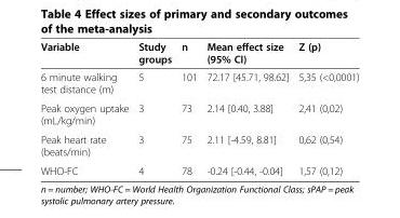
<table><thead><tr><td>Variable</td><td>Study groups</td><td>n</td><td>Mean effect size (95% CI)</td><td>Z (p)</td></tr></thead><tbody><tr><td>6 minute walking test distance (m)</td><td>5</td><td>101</td><td>72.17 [45.71, 98.62]</td><td>5,35 (&lt;0,0001)</td></tr><tr><td>Peak oxygen uptake (mL/kg/min)</td><td>3</td><td>73</td><td>2.14 [0.40, 3.88]</td><td>2,41 (0,02)</td></tr><tr><td>Peak heart rate (beats/min)</td><td>3</td><td>75</td><td>2.11 [-4.59, 8.81]</td><td>0,62 (0,54)</td></tr><tr><td>WHO-FC</td><td>4</td><td>78</td><td>-0.24 [-0.44, -0.04]</td><td>1,57 (0,12)</td></tr></tbody></table>